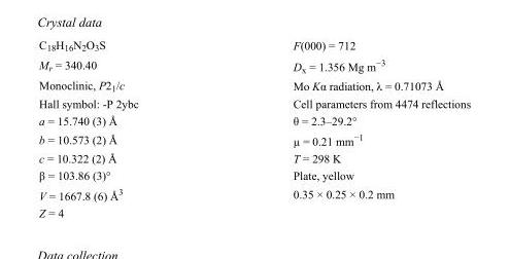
<table><tbody><tr><td>C<sub>18</sub>H<sub>16</sub>N<sub>2</sub>O<sub>3</sub>S</td><td>F(000) = 712</td></tr><tr><td>M<sub>r</sub> = 340.40</td><td>D<sub>x</sub> = 1.356 Mg m<sup>−3</sup></td></tr><tr><td>Monoclinic, P2<sub>1</sub>/c</td><td>Mo Kα radiation, λ = 0.71073 Å</td></tr><tr><td>Hall symbol: -P 2ybc</td><td>Cell parameters from 4474 reflections</td></tr><tr><td>a = 15.740 (3) Å</td><td>θ = 2.3–29.2°</td></tr><tr><td>b = 10.573 (2) Å</td><td>µ = 0.21 mm<sup>−1</sup></td></tr><tr><td>c = 10.322 (2) Å</td><td>T = 298 K</td></tr><tr><td>β = 103.86 (3)°</td><td>Plate, yellow</td></tr><tr><td>V = 1667.8 (6) Å<sup>3</sup></td><td>0.35 × 0.25 × 0.2 mm</td></tr><tr><td>Z = 4</td><td></td></tr></tbody></table>